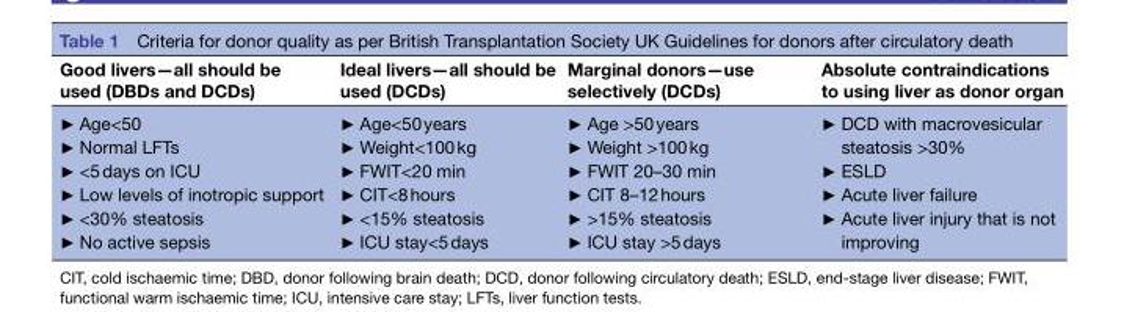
<table><thead><tr><td>Good livers—all should be used (DBDs and DCDs)</td><td>Ideal livers—all should be used (DCDs)</td><td>Marginal donors—use selectively (DCDs)</td><td>Absolute contraindications to using liver as donor organ</td></tr></thead><tbody><tr><td>► Age&lt;50 ► Normal LFTs ► &lt;5 days on ICU ► Low levels of inotropic support ► &lt;30% steatosis ► No active sepsis</td><td>► Age&lt;50 years ► Weight&lt;100 kg ► FWIT&lt;20 min ► CIT&lt;8 hours ► &lt;15% steatosis ► ICU stay&lt;5 days</td><td>► Age &gt;50 years ► Weight &gt;100 kg ► FWIT 20–30 min ► CIT 8–12 hours ► &gt;15% steatosis ► ICU stay &gt;5 days</td><td>► DCD with macrovesicular steatosis &gt;30% ► ESLD ► Acute liver failure ► Acute liver injury that is not improving</td></tr></tbody></table>